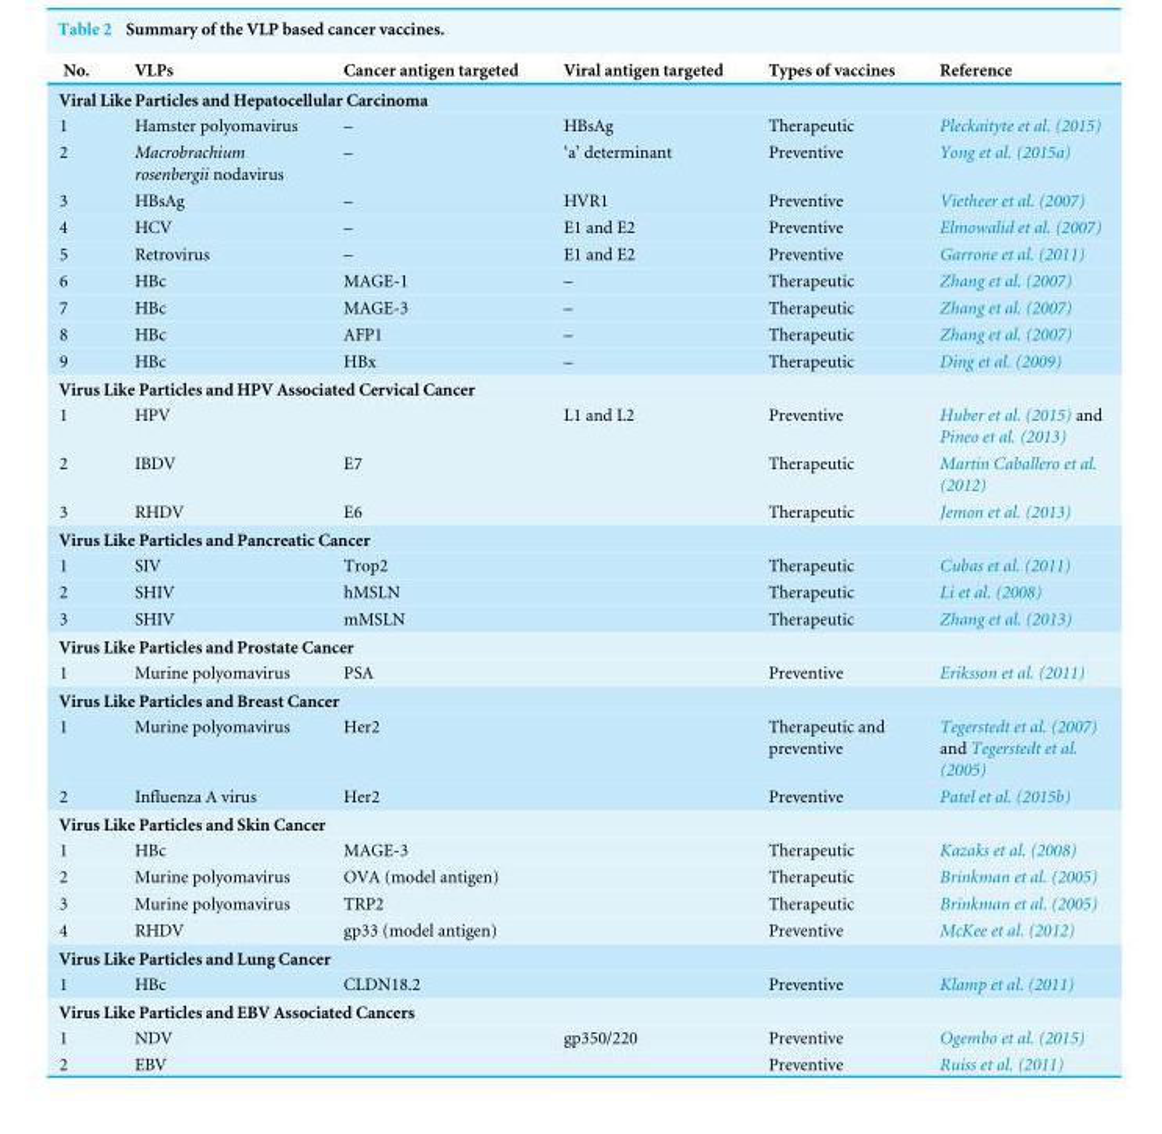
<table><thead><tr><td>No.</td><td>VLPs</td><td>Cancer antigen targeted</td><td>Viral antigen targeted</td><td>Types of vaccines</td><td>Reference</td></tr></thead><tbody><tr><td colspan="6">Viral Like Particles and Hepatocellular Carcinoma</td></tr><tr><td>1</td><td>Hamster polyomavirus</td><td>–</td><td>HBsAg</td><td>Therapeutic</td><td>Pleckaityte et al. (2015)</td></tr><tr><td>2</td><td>Macrobrachium rosenbergii nodavirus</td><td>–</td><td>‘a’ determinant</td><td>Preventive</td><td>Yong et al. (2015a)</td></tr><tr><td>3</td><td>HBsAg</td><td>–</td><td>HVR1</td><td>Preventive</td><td>Vietheer et al. (2007)</td></tr><tr><td>4</td><td>HCV</td><td>–</td><td>E1 and E2</td><td>Preventive</td><td>Elmowalid et al. (2007)</td></tr><tr><td>5</td><td>Retrovirus</td><td>–</td><td>E1 and E2</td><td>Preventive</td><td>Garrone et al. (2011)</td></tr><tr><td>6</td><td>HBc</td><td>MAGE-1</td><td>–</td><td>Therapeutic</td><td>Zhang et al. (2007)</td></tr><tr><td>7</td><td>HBc</td><td>MAGE-3</td><td>–</td><td>Therapeutic</td><td>Zhang et al. (2007)</td></tr><tr><td>8</td><td>HBc</td><td>AFP1</td><td>–</td><td>Therapeutic</td><td>Zhang et al. (2007)</td></tr><tr><td>9</td><td>HBc</td><td>HBx</td><td>–</td><td>Therapeutic</td><td>Ding et al. (2009)</td></tr><tr><td colspan="6">Virus Like Particles and HPV Associated Cervical Cancer</td></tr><tr><td>1</td><td>HPV</td><td></td><td>L1 and L2</td><td>Preventive</td><td>Huber et al. (2015) and Pineo et al. (2013)</td></tr><tr><td>2</td><td>IBDV</td><td>E7</td><td></td><td>Therapeutic</td><td>Martin Caballero et al. (2012)</td></tr><tr><td>3</td><td>RHDV</td><td>E6</td><td></td><td>Therapeutic</td><td>Jemon et al. (2013)</td></tr><tr><td colspan="6">Virus Like Particles and Pancreatic Cancer</td></tr><tr><td>1</td><td>SIV</td><td>Trop2</td><td></td><td>Therapeutic</td><td>Cubas et al. (2011)</td></tr><tr><td>2</td><td>SHIV</td><td>hMSLN</td><td></td><td>Therapeutic</td><td>Li et al. (2008)</td></tr><tr><td>3</td><td>SHIV</td><td>mMSLN</td><td></td><td>Therapeutic</td><td>Zhang et al. (2013)</td></tr><tr><td colspan="6">Virus Like Particles and Prostate Cancer</td></tr><tr><td>1</td><td>Murine polyomavirus</td><td>PSA</td><td></td><td>Preventive</td><td>Eriksson et al. (2011)</td></tr><tr><td colspan="6">Virus Like Particles and Breast Cancer</td></tr><tr><td>1</td><td>Murine polyomavirus</td><td>Her2</td><td></td><td>Therapeutic and preventive</td><td>Tegerstedt et al. (2007) and Tegerstedt et al. (2005)</td></tr><tr><td>2</td><td>Influenza A virus</td><td>Her2</td><td></td><td>Preventive</td><td>Patel et al. (2015b)</td></tr><tr><td colspan="6">Virus Like Particles and Skin Cancer</td></tr><tr><td>1</td><td>HBc</td><td>MAGE-3</td><td></td><td>Therapeutic</td><td>Kazaks et al. (2008)</td></tr><tr><td>2</td><td>Murine polyomavirus</td><td>OVA (model antigen)</td><td></td><td>Therapeutic</td><td>Brinkman et al. (2005)</td></tr><tr><td>3</td><td>Murine polyomavirus</td><td>TRP2</td><td></td><td>Therapeutic</td><td>Brinkman et al. (2005)</td></tr><tr><td>4</td><td>RHDV</td><td>gp33 (model antigen)</td><td></td><td>Preventive</td><td>McKee et al. (2012)</td></tr><tr><td colspan="6">Virus Like Particles and Lung Cancer</td></tr><tr><td>1</td><td>HBc</td><td>CLDN18.2</td><td></td><td>Preventive</td><td>Klamp et al. (2011)</td></tr><tr><td colspan="6">Virus Like Particles and EBV Associated Cancers</td></tr><tr><td>1</td><td>NDV</td><td></td><td>gp350/220</td><td>Preventive</td><td>Ogembo et al. (2015)</td></tr><tr><td>2</td><td>EBV</td><td></td><td></td><td>Preventive</td><td>Ruiss et al. (2011)</td></tr></tbody></table>